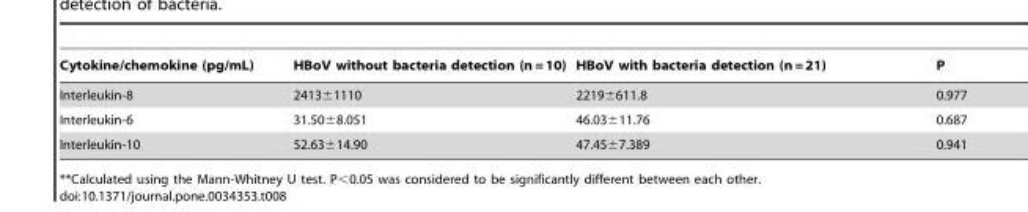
<table><thead><tr><td>Cytokine/chemokine (pg/mL)</td><td>HBoV without bacteria detection (n = 10)</td><td>HBoV with bacteria detection (n = 21)</td><td>P</td></tr></thead><tbody><tr><td>Interleukin-8</td><td>2413±1110</td><td>2219±611.8</td><td>0.977</td></tr><tr><td>Interleukin-6</td><td>31.50±8.051</td><td>46.03±11.76</td><td>0.687</td></tr><tr><td>Interleukin-10</td><td>52.63±14.90</td><td>47.45±7.389</td><td>0.941</td></tr></tbody></table>